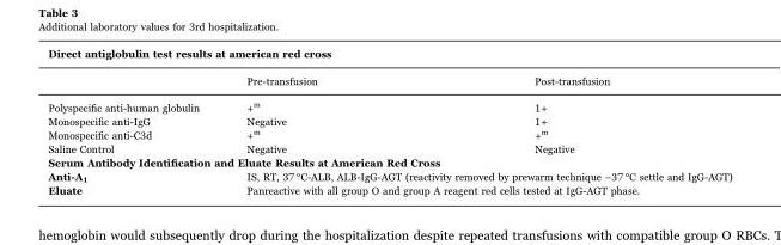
<table><thead><tr><td colspan="3">Direct antiglobulin test results at american red cross</td></tr><tr><td></td><td>Pre-transfusion</td><td>Post-transfusion</td></tr></thead><tbody><tr><td>Polyspecific anti-human globulin</td><td>+<sup>m</sup></td><td>1+</td></tr><tr><td>Monospecific anti-IgG</td><td>Negative</td><td>1+</td></tr><tr><td>Monospecific anti-C3d</td><td>+<sup>m</sup></td><td>+<sup>m</sup></td></tr><tr><td>Saline Control</td><td>Negative</td><td>Negative</td></tr><tr><td colspan="3">Serum Antibody Identification and Eluate Results at American Red Cross</td></tr><tr><td>Anti-A<sub>1</sub></td><td colspan="2">IS, RT, 37 °C-ALB, ALB-IgG-AGT (reactivity removed by prewarm technique −37 °C settle and IgG-AGT)</td></tr><tr><td>Eluate</td><td colspan="2">Panreactive with all group O and group A reagent red cells tested at IgG-AGT phase.</td></tr></tbody></table>